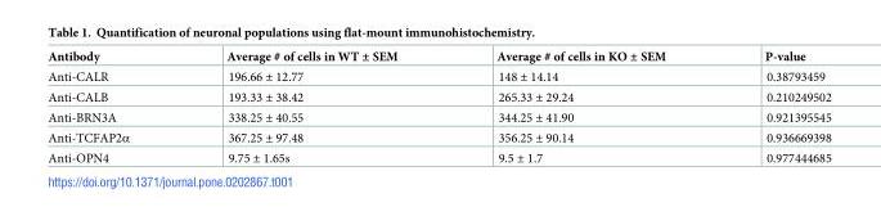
<table><thead><tr><td>Antibody</td><td>Average # of cells in WT ± SEM</td><td>Average # of cells in KO ± SEM</td><td>P-value</td></tr></thead><tbody><tr><td>Anti-CALR</td><td>196.66 ± 12.77</td><td>148 ± 14.14</td><td>0.38793459</td></tr><tr><td>Anti-CALB</td><td>193.33 ± 38.42</td><td>265.33 ± 29.24</td><td>0.210249502</td></tr><tr><td>Anti-BRN3A</td><td>338.25 ± 40.55</td><td>344.25 ± 41.90</td><td>0.921395545</td></tr><tr><td>Anti-TCFAP2α</td><td>367.25 ± 97.48</td><td>356.25 ± 90.14</td><td>0.936669398</td></tr><tr><td>Anti-OPN4</td><td>9.75 ± 1.65s</td><td>9.5 ± 1.7</td><td>0.977444685</td></tr></tbody></table>